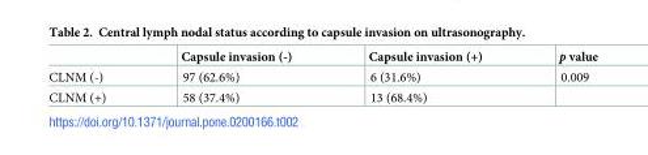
<table><thead><tr><td></td><td>Capsule invasion (-)</td><td>Capsule invasion (+)</td><td>p value</td></tr></thead><tbody><tr><td>CLNM (-)</td><td>97 (62.6%)</td><td>6 (31.6%)</td><td>0.009</td></tr><tr><td>CLNM (+)</td><td>58 (37.4%)</td><td>13 (68.4%)</td><td></td></tr></tbody></table>